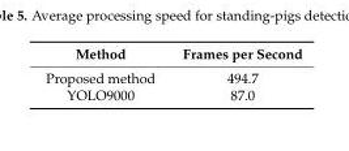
<table><thead><tr><td>Method</td><td>Frames per Second</td></tr></thead><tbody><tr><td>Proposed method</td><td>494.7</td></tr><tr><td>YOLO9000</td><td>87.0</td></tr></tbody></table>